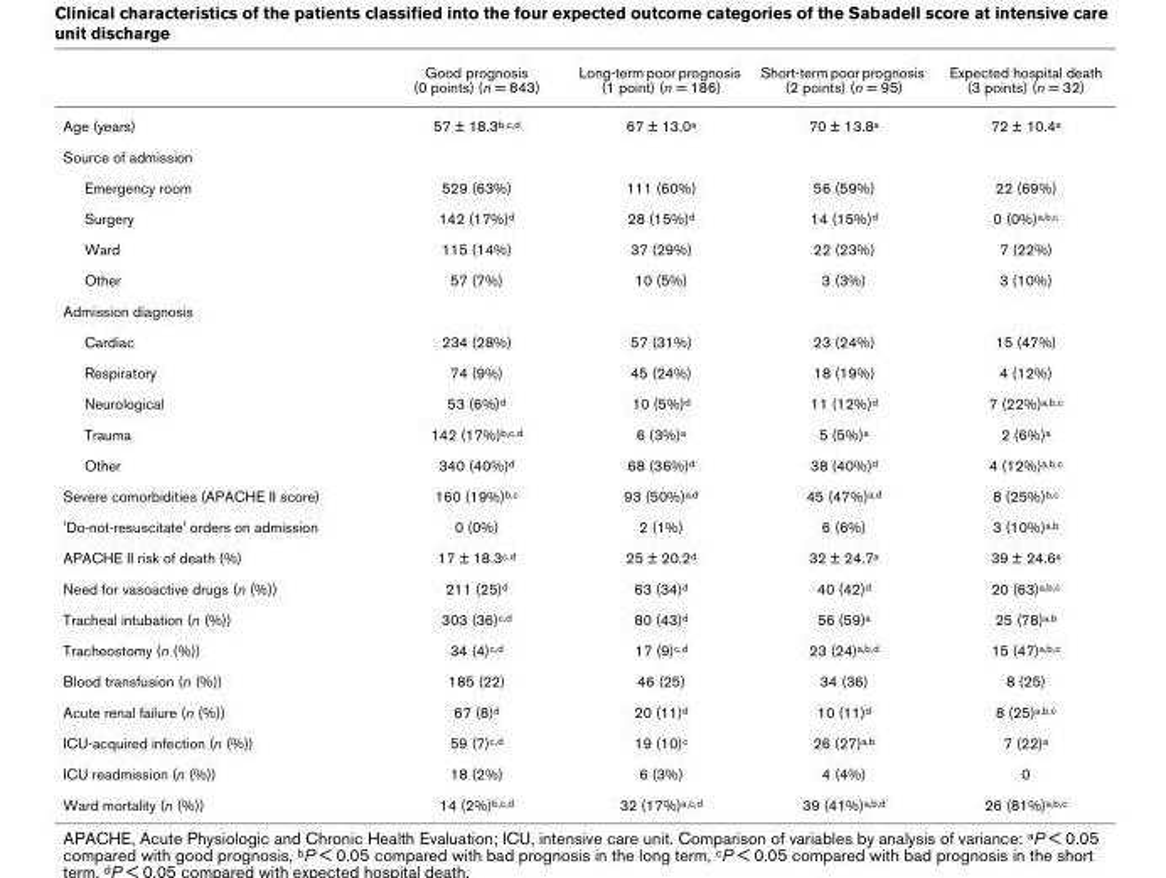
<table><thead><tr><td></td><td>Good prognosis (0 points) (n = 843)</td><td>Long-term poor prognosis (1 point) (n = 186)</td><td>Short-term poor prognosis (2 points) (n = 95)</td><td>Expected hospital death (3 points) (n = 32)</td></tr></thead><tbody><tr><td>Age (years)</td><td>57 ± 18.3b,c,d</td><td>67 ± 13.0a</td><td>70 ± 13.8a</td><td>72 ± 10.4a</td></tr><tr><td colspan="5">Source of admission</td></tr><tr><td>Emergency room</td><td>529 (63%)</td><td>111 (60%)</td><td>56 (59%)</td><td>22 (69%)</td></tr><tr><td>Surgery</td><td>142 (17%)d</td><td>28 (15%)d</td><td>14 (15%)d</td><td>0 (0%)a,b,c</td></tr><tr><td>Ward</td><td>115 (14%)</td><td>37 (29%)</td><td>22 (23%)</td><td>7 (22%)</td></tr><tr><td>Other</td><td>57 (7%)</td><td>10 (5%)</td><td>3 (3%)</td><td>3 (10%)</td></tr><tr><td colspan="5">Admission diagnosis</td></tr><tr><td>Cardiac</td><td>234 (28%)</td><td>57 (31%)</td><td>23 (24%)</td><td>15 (47%)</td></tr><tr><td>Respiratory</td><td>74 (9%)</td><td>45 (24%)</td><td>18 (19%)</td><td>4 (12%)</td></tr><tr><td>Neurological</td><td>53 (6%)d</td><td>10 (5%)d</td><td>11 (12%)d</td><td>7 (22%)a,b,c</td></tr><tr><td>Trauma</td><td>142 (17%)b,c,d</td><td>6 (3%)a</td><td>5 (5%)a</td><td>2 (6%)a</td></tr><tr><td>Other</td><td>340 (40%)d</td><td>68 (36%)d</td><td>38 (40%)d</td><td>4 (12%)a,b,c</td></tr><tr><td>Severe comorbidities (APACHE II score)</td><td>160 (19%)b,c</td><td>93 (50%)a,d</td><td>45 (47%)a,d</td><td>8 (25%)b,c</td></tr><tr><td>&#x27;Do-not-resuscitate&#x27; orders on admission</td><td>0 (0%)</td><td>2 (1%)</td><td>6 (6%)</td><td>3 (10%)a,b</td></tr><tr><td>APACHE II risk of death (%)</td><td>17 ± 18.3c,d</td><td>25 ± 20.2d</td><td>32 ± 24.7a</td><td>39 ± 24.6a</td></tr><tr><td>Need for vasoactive drugs (n (%))</td><td>211 (25)d</td><td>63 (34)d</td><td>40 (42)d</td><td>20 (63)a,b,c</td></tr><tr><td>Tracheal intubation (n (%))</td><td>303 (36)c,d</td><td>80 (43)d</td><td>56 (59)a</td><td>25 (78)a,b</td></tr><tr><td>Tracheostomy (n (%))</td><td>34 (4)c,d</td><td>17 (9)c,d</td><td>23 (24)a,b,d</td><td>15 (47)a,b,c</td></tr><tr><td>Blood transfusion (n (%))</td><td>185 (22)</td><td>46 (25)</td><td>34 (36)</td><td>8 (25)</td></tr><tr><td>Acute renal failure (n (%))</td><td>67 (8)d</td><td>20 (11)d</td><td>10 (11)d</td><td>8 (25)a,b,c</td></tr><tr><td>ICU-acquired infection (n (%))</td><td>59 (7)c,d</td><td>19 (10)c</td><td>26 (27)a,b</td><td>7 (22)a</td></tr><tr><td>ICU readmission (n (%))</td><td>18 (2%)</td><td>6 (3%)</td><td>4 (4%)</td><td>0</td></tr><tr><td>Ward mortality (n (%))</td><td>14 (2%)b,c,d</td><td>32 (17%)a,c,d</td><td>39 (41%)a,b,d</td><td>26 (81%)a,b,c</td></tr></tbody></table>